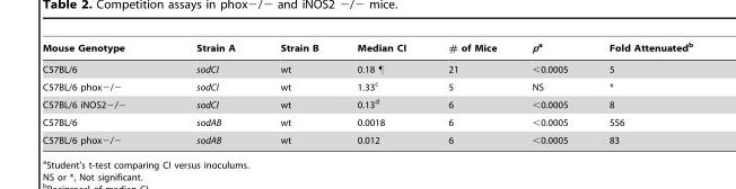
<table><thead><tr><td>Mouse Genotype</td><td>Strain A</td><td>Strain B</td><td>Median CI</td><td># of Mice</td><td>pa</td><td>Fold Attenuated<sup>b</sup></td></tr></thead><tbody><tr><td>C57BL/6</td><td>sodCI</td><td>wt</td><td>0.18 ¶</td><td>21</td><td>&lt;0.0005</td><td>5</td></tr><tr><td>C57BL/6 phox−/−</td><td>sodCI</td><td>wt</td><td>1.33<sup>c</sup></td><td>5</td><td>NS</td><td>*</td></tr><tr><td>C57BL/6 iNOS2−/−</td><td>sodCI</td><td>wt</td><td>0.13<sup>d</sup></td><td>6</td><td>&lt;0.0005</td><td>8</td></tr><tr><td>C57BL/6</td><td>sodAB</td><td>wt</td><td>0.0018</td><td>6</td><td>&lt;0.0005</td><td>556</td></tr><tr><td>C57BL/6 phox−/−</td><td>sodAB</td><td>wt</td><td>0.012</td><td>6</td><td>&lt;0.0005</td><td>83</td></tr></tbody></table>